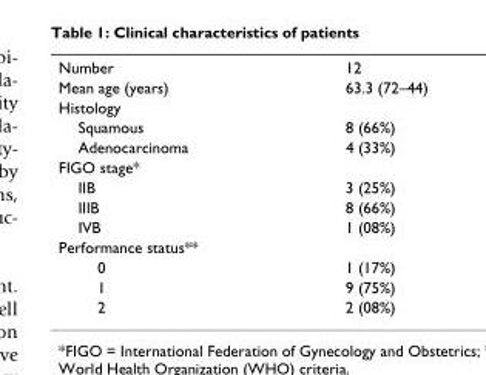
<table><tbody><tr><td>Number</td><td>12</td></tr><tr><td>Mean age (years)</td><td>63.3 (72–44)</td></tr><tr><td colspan="2">Histology</td></tr><tr><td>Squamous</td><td>8 (66%)</td></tr><tr><td>Adenocarcinoma</td><td>4 (33%)</td></tr><tr><td colspan="2">FIGO stage*</td></tr><tr><td>IIB</td><td>3 (25%)</td></tr><tr><td>IIIB</td><td>8 (66%)</td></tr><tr><td>IVB</td><td>1 (08%)</td></tr><tr><td colspan="2">Performance status**</td></tr><tr><td>0</td><td>1 (17%)</td></tr><tr><td>1</td><td>9 (75%)</td></tr><tr><td>2</td><td>2 (08%)</td></tr></tbody></table>